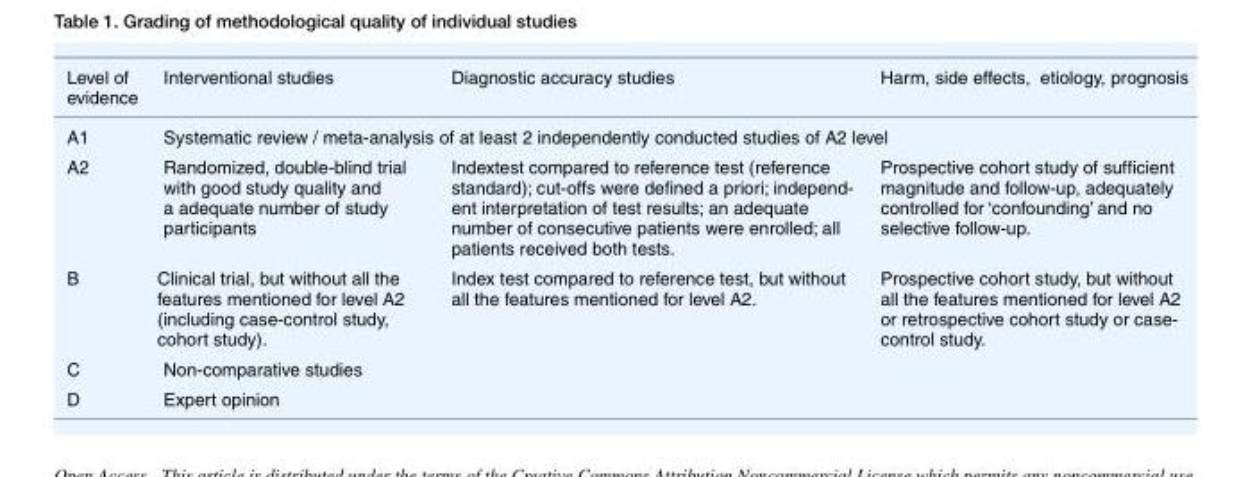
<table><thead><tr><td>Level of evidence</td><td>Interventional studies</td><td>Diagnostic accuracy studies</td><td>Harm, side effects, etiology, prognosis</td></tr></thead><tbody><tr><td>A1</td><td colspan="3">Systematic review / meta-analysis of at least 2 independently conducted studies of A2 level</td></tr><tr><td>A2</td><td>Randomized, double-blind trial with good study quality and a adequate number of study participants</td><td>Indextest compared to reference test (reference standard); cut-offs were defined a priori; independ- ent interpretation of test results; an adequate number of consecutive patients were enrolled; all patients received both tests.</td><td>Prospective cohort study of sufficient magnitude and follow-up, adequately controlled for ‘confounding’ and no selective follow-up.</td></tr><tr><td>B</td><td>Clinical trial, but without all the features mentioned for level A2 (including case-control study, cohort study).</td><td>Index test compared to reference test, but without all the features mentioned for level A2.</td><td>Prospective cohort study, but without all the features mentioned for level A2 or retrospective cohort study or case- control study.</td></tr><tr><td>C</td><td colspan="3">Non-comparative studies</td></tr><tr><td>D</td><td colspan="3">Expert opinion</td></tr></tbody></table>